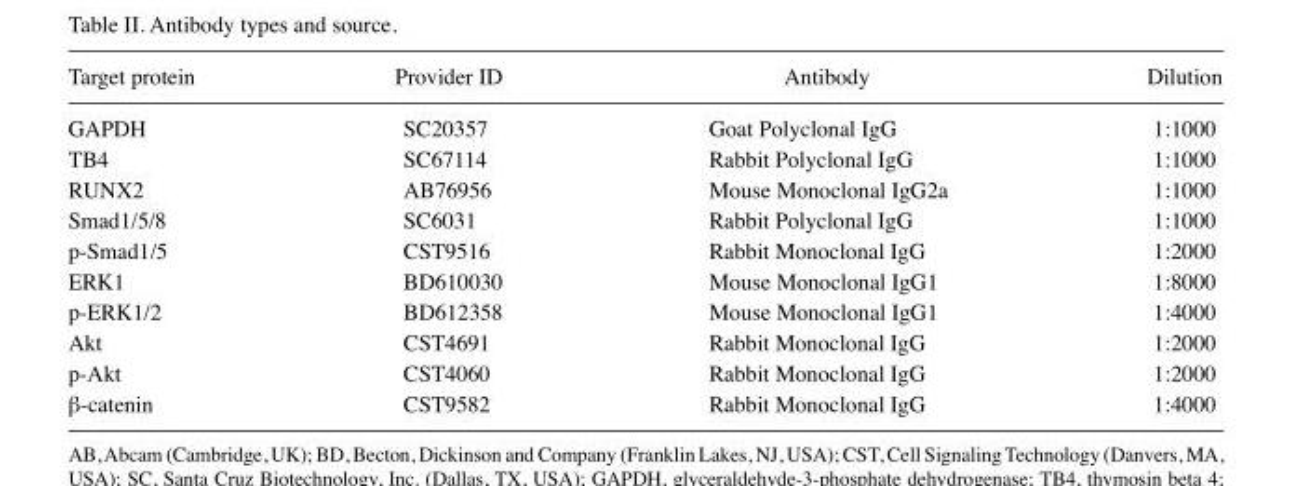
<table><thead><tr><td>Target protein</td><td>Provider ID</td><td>Antibody</td><td>Dilution</td></tr></thead><tbody><tr><td>GAPDH</td><td>SC20357</td><td>Goat Polyclonal IgG</td><td>1:1000</td></tr><tr><td>TB4</td><td>SC67114</td><td>Rabbit Polyclonal IgG</td><td>1:1000</td></tr><tr><td>RUNX2</td><td>AB76956</td><td>Mouse Monoclonal IgG2a</td><td>1:1000</td></tr><tr><td>Smad1/5/8</td><td>SC6031</td><td>Rabbit Polyclonal IgG</td><td>1:1000</td></tr><tr><td>p-Smad1/5</td><td>CST9516</td><td>Rabbit Monoclonal IgG</td><td>1:2000</td></tr><tr><td>ERK1</td><td>BD610030</td><td>Mouse Monoclonal IgG1</td><td>1:8000</td></tr><tr><td>p-ERK1/2</td><td>BD612358</td><td>Mouse Monoclonal IgG1</td><td>1:4000</td></tr><tr><td>Akt</td><td>CST4691</td><td>Rabbit Monoclonal IgG</td><td>1:2000</td></tr><tr><td>p-Akt</td><td>CST4060</td><td>Rabbit Monoclonal IgG</td><td>1:2000</td></tr><tr><td>β-catenin</td><td>CST9582</td><td>Rabbit Monoclonal IgG</td><td>1:4000</td></tr></tbody></table>